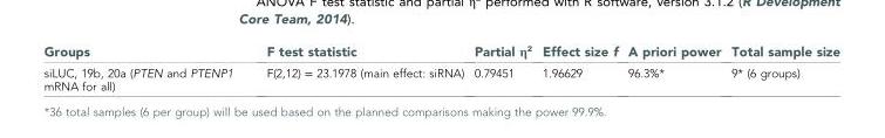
<table><thead><tr><td>Groups</td><td>F test statistic</td><td>Partial η<sup>2</sup></td><td>Effect size f</td><td>A priori power</td><td>Total sample size</td></tr></thead><tbody><tr><td>siLUC, 19b, 20a (PTEN and PTENP1 mRNA for all)</td><td>F(2,12) = 23.1978 (main effect: siRNA)</td><td>0.79451</td><td>1.96629</td><td>96.3%*</td><td>9* (6 groups)</td></tr></tbody></table>